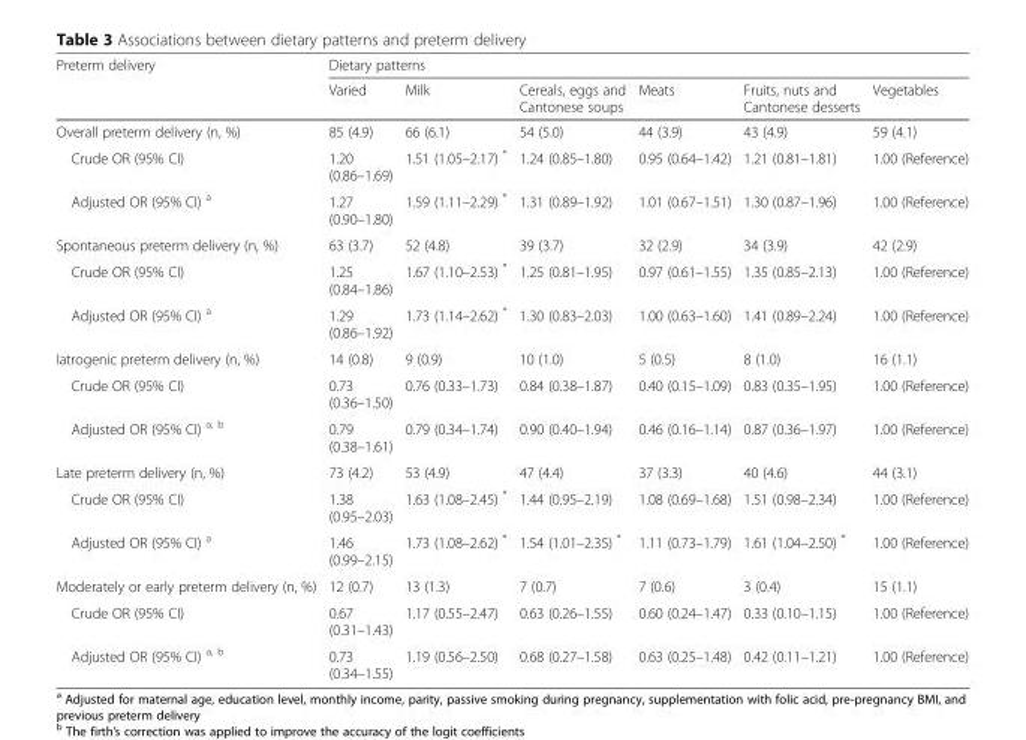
<table><thead><tr><td rowspan="2">Preterm delivery</td><td colspan="6">Dietary patterns</td></tr><tr><td>Varied</td><td>Milk</td><td>Cereals, eggs and Cantonese soups</td><td>Meats</td><td>Fruits, nuts and Cantonese desserts</td><td>Vegetables</td></tr></thead><tbody><tr><td>Overall preterm delivery (n, %)</td><td>85 (4.9)</td><td>66 (6.1)</td><td>54 (5.0)</td><td>44 (3.9)</td><td>43 (4.9)</td><td>59 (4.1)</td></tr><tr><td>Crude OR (95% CI)</td><td>1.20 (0.86–1.69)</td><td>1.51 (1.05–2.17) *</td><td>1.24 (0.85–1.80)</td><td>0.95 (0.64–1.42)</td><td>1.21 (0.81–1.81)</td><td>1.00 (Reference)</td></tr><tr><td>Adjusted OR (95% CI) <sup>a</sup></td><td>1.27 (0.90–1.80)</td><td>1.59 (1.11–2.29) *</td><td>1.31 (0.89–1.92)</td><td>1.01 (0.67–1.51)</td><td>1.30 (0.87–1.96)</td><td>1.00 (Reference)</td></tr><tr><td>Spontaneous preterm delivery (n, %)</td><td>63 (3.7)</td><td>52 (4.8)</td><td>39 (3.7)</td><td>32 (2.9)</td><td>34 (3.9)</td><td>42 (2.9)</td></tr><tr><td>Crude OR (95% CI)</td><td>1.25 (0.84–1.86)</td><td>1.67 (1.10–2.53) *</td><td>1.25 (0.81–1.95)</td><td>0.97 (0.61–1.55)</td><td>1.35 (0.85–2.13)</td><td>1.00 (Reference)</td></tr><tr><td>Adjusted OR (95% CI) <sup>a</sup></td><td>1.29 (0.86–1.92)</td><td>1.73 (1.14–2.62) *</td><td>1.30 (0.83–2.03)</td><td>1.00 (0.63–1.60)</td><td>1.41 (0.89–2.24)</td><td>1.00 (Reference)</td></tr><tr><td>Iatrogenic preterm delivery (n, %)</td><td>14 (0.8)</td><td>9 (0.9)</td><td>10 (1.0)</td><td>5 (0.5)</td><td>8 (1.0)</td><td>16 (1.1)</td></tr><tr><td>Crude OR (95% CI)</td><td>0.73 (0.36–1.50)</td><td>0.76 (0.33–1.73)</td><td>0.84 (0.38–1.87)</td><td>0.40 (0.15–1.09)</td><td>0.83 (0.35–1.95)</td><td>1.00 (Reference)</td></tr><tr><td>Adjusted OR (95% CI) <sup>a, b</sup></td><td>0.79 (0.38–1.61)</td><td>0.79 (0.34–1.74)</td><td>0.90 (0.40–1.94)</td><td>0.46 (0.16–1.14)</td><td>0.87 (0.36–1.97)</td><td>1.00 (Reference)</td></tr><tr><td>Late preterm delivery (n, %)</td><td>73 (4.2)</td><td>53 (4.9)</td><td>47 (4.4)</td><td>37 (3.3)</td><td>40 (4.6)</td><td>44 (3.1)</td></tr><tr><td>Crude OR (95% CI)</td><td>1.38 (0.95–2.03)</td><td>1.63 (1.08–2.45) *</td><td>1.44 (0.95–2.19)</td><td>1.08 (0.69–1.68)</td><td>1.51 (0.98–2.34)</td><td>1.00 (Reference)</td></tr><tr><td>Adjusted OR (95% CI) <sup>a</sup></td><td>1.46 (0.99–2.15)</td><td>1.73 (1.08–2.62) *</td><td>1.54 (1.01–2.35) *</td><td>1.11 (0.73–1.79)</td><td>1.61 (1.04–2.50) *</td><td>1.00 (Reference)</td></tr><tr><td>Moderately or early preterm delivery (n, %)</td><td>12 (0.7)</td><td>13 (1.3)</td><td>7 (0.7)</td><td>7 (0.6)</td><td>3 (0.4)</td><td>15 (1.1)</td></tr><tr><td>Crude OR (95% CI)</td><td>0.67 (0.31–1.43)</td><td>1.17 (0.55–2.47)</td><td>0.63 (0.26–1.55)</td><td>0.60 (0.24–1.47)</td><td>0.33 (0.10–1.15)</td><td>1.00 (Reference)</td></tr><tr><td>Adjusted OR (95% CI) <sup>a, b</sup></td><td>0.73 (0.34–1.55)</td><td>1.19 (0.56–2.50)</td><td>0.68 (0.27–1.58)</td><td>0.63 (0.25–1.48)</td><td>0.42 (0.11–1.21)</td><td>1.00 (Reference)</td></tr></tbody></table>